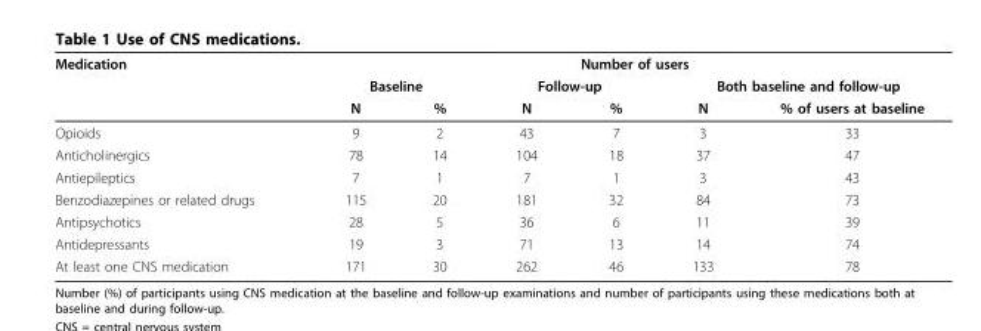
<table><thead><tr><td rowspan="3">Medication</td><td colspan="6">Number of users</td></tr><tr><td colspan="2">Baseline</td><td colspan="2">Follow-up</td><td colspan="2">Both baseline and follow-up</td></tr><tr><td>N</td><td>%</td><td>N</td><td>%</td><td>N</td><td>% of users at baseline</td></tr></thead><tbody><tr><td>Opioids</td><td>9</td><td>2</td><td>43</td><td>7</td><td>3</td><td>33</td></tr><tr><td>Anticholinergics</td><td>78</td><td>14</td><td>104</td><td>18</td><td>37</td><td>47</td></tr><tr><td>Antiepileptics</td><td>7</td><td>1</td><td>7</td><td>1</td><td>3</td><td>43</td></tr><tr><td>Benzodiazepines or related drugs</td><td>115</td><td>20</td><td>181</td><td>32</td><td>84</td><td>73</td></tr><tr><td>Antipsychotics</td><td>28</td><td>5</td><td>36</td><td>6</td><td>11</td><td>39</td></tr><tr><td>Antidepressants</td><td>19</td><td>3</td><td>71</td><td>13</td><td>14</td><td>74</td></tr><tr><td>At least one CNS medication</td><td>171</td><td>30</td><td>262</td><td>46</td><td>133</td><td>78</td></tr></tbody></table>